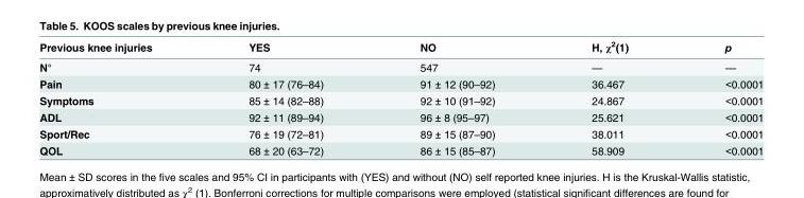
<table><thead><tr><td>Previous knee injuries</td><td>YES</td><td>NO</td><td>H, χ<sup>2</sup>(1)</td><td>p</td></tr></thead><tbody><tr><td>N°</td><td>74</td><td>547</td><td>—</td><td>—</td></tr><tr><td>Pain</td><td>80 ± 17 (76–84)</td><td>91 ± 12 (90–92)</td><td>36.467</td><td>&lt;0.0001</td></tr><tr><td>Symptoms</td><td>85 ± 14 (82–88)</td><td>92 ± 10 (91–92)</td><td>24.867</td><td>&lt;0.0001</td></tr><tr><td>ADL</td><td>92 ± 11 (89–94)</td><td>96 ± 8 (95–97)</td><td>25.621</td><td>&lt;0.0001</td></tr><tr><td>Sport/Rec</td><td>76 ± 19 (72–81)</td><td>89 ± 15 (87–90)</td><td>38.011</td><td>&lt;0.0001</td></tr><tr><td>QOL</td><td>68 ± 20 (63–72)</td><td>86 ± 15 (85–87)</td><td>58.909</td><td>&lt;0.0001</td></tr></tbody></table>